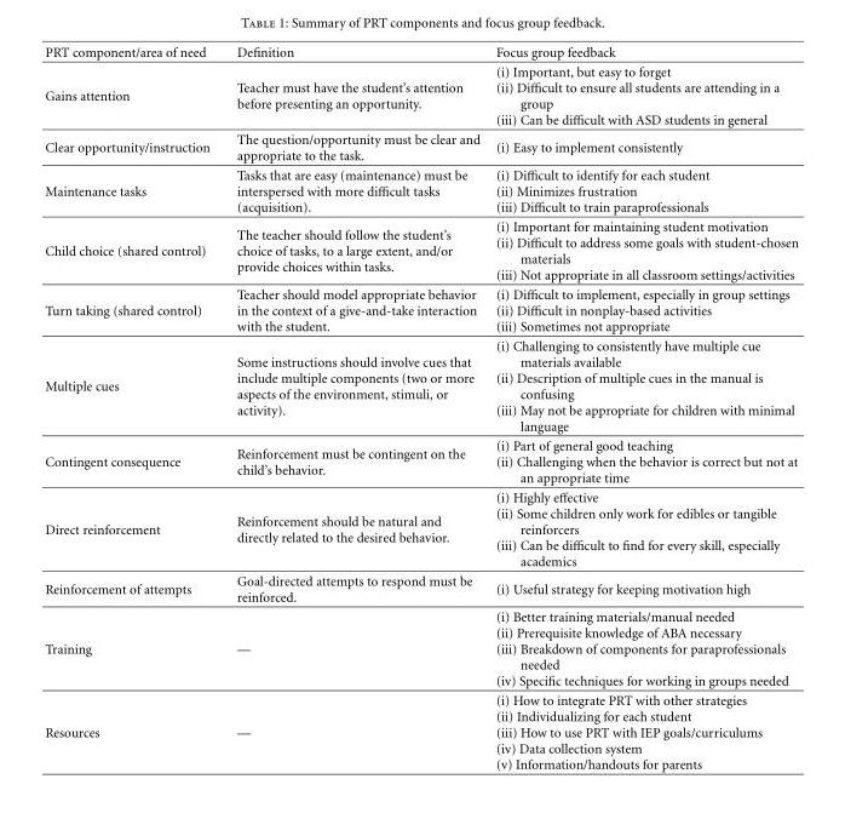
<table><thead><tr><td>PRT component/area of need</td><td>Definition</td><td>Focus group feedback</td></tr></thead><tbody><tr><td>Gains attention</td><td>Teacher must have the student’s attention before presenting an opportunity.</td><td>(i) Important, but easy to forget (ii) Difficult to ensure all students are attending in a group (iii) Can be difficult with ASD students in general</td></tr><tr><td>Clear opportunity/instruction</td><td>The question/opportunity must be clear and appropriate to the task.</td><td>(i) Easy to implement consistently</td></tr><tr><td>Maintenance tasks</td><td>Tasks that are easy (maintenance) must be interspersed with more difficult tasks (acquisition).</td><td>(i) Difficult to identify for each student (ii) Minimizes frustration (iii) Difficult to train paraprofessionals</td></tr><tr><td>Child choice (shared control)</td><td>The teacher should follow the student’s choice of tasks, to a large extent, and/or provide choices within tasks.</td><td>(i) Important for maintaining student motivation (ii) Difficult to address some goals with student-chosen materials (iii) Not appropriate in all classroom settings/activities</td></tr><tr><td>Turn taking (shared control)</td><td>Teacher should model appropriate behavior in the context of a give-and-take interaction with the student.</td><td>(i) Difficult to implement, especially in group settings (ii) Difficult in nonplay-based activities (iii) Sometimes not appropriate</td></tr><tr><td>Multiple cues</td><td>Some instructions should involve cues that include multiple components (two or more aspects of the environment, stimuli, or activity).</td><td>(i) Challenging to consistently have multiple cue materials available (ii) Description of multiple cues in the manual is confusing (iii) May not be appropriate for children with minimal language</td></tr><tr><td>Contingent consequence</td><td>Reinforcement must be contingent on the child’s behavior.</td><td>(i) Part of general good teaching (ii) Challenging when the behavior is correct but not at an appropriate time</td></tr><tr><td>Direct reinforcement</td><td>Reinforcement should be natural and directly related to the desired behavior.</td><td>(i) Highly effective (ii) Some children only work for edibles or tangible reinforcers (iii) Can be difficult to find for every skill, especially academics</td></tr><tr><td>Reinforcement of attempts</td><td>Goal-directed attempts to respond must be reinforced.</td><td>(i) Useful strategy for keeping motivation high</td></tr><tr><td>Training</td><td>—</td><td>(i) Better training materials/manual needed (ii) Prerequisite knowledge of ABA necessary (iii) Breakdown of components for paraprofessionals needed (iv) Specific techniques for working in groups needed</td></tr><tr><td>Resources</td><td>—</td><td>(i) How to integrate PRT with other strategies (ii) Individualizing for each student (iii) How to use PRT with IEP goals/curriculums (iv) Data collection system (v) Information/handouts for parents</td></tr></tbody></table>